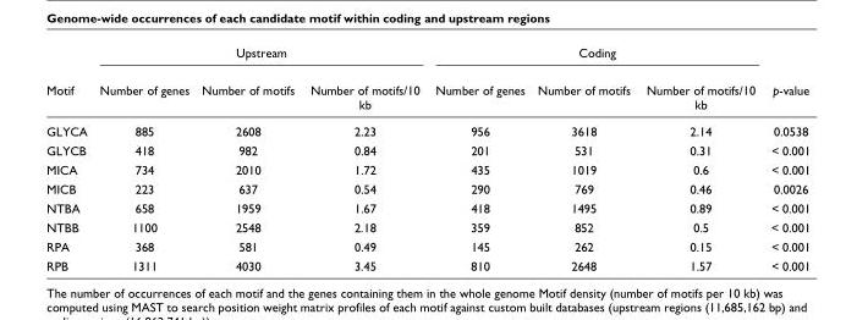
<table><thead><tr><td rowspan="2">Motif</td><td colspan="3">Upstream</td><td colspan="3">Coding</td><td rowspan="2">p-value</td></tr><tr><td>Number of genes</td><td>Number of motifs</td><td>Number of motifs/10 kb</td><td>Number of genes</td><td>Number of motifs</td><td>Number of motifs/10 kb</td></tr></thead><tbody><tr><td>GLYCA</td><td>885</td><td>2608</td><td>2.23</td><td>956</td><td>3618</td><td>2.14</td><td>0.0538</td></tr><tr><td>GLYCB</td><td>418</td><td>982</td><td>0.84</td><td>201</td><td>531</td><td>0.31</td><td>&lt; 0.001</td></tr><tr><td>MICA</td><td>734</td><td>2010</td><td>1.72</td><td>435</td><td>1019</td><td>0.6</td><td>&lt; 0.001</td></tr><tr><td>MICB</td><td>223</td><td>637</td><td>0.54</td><td>290</td><td>769</td><td>0.46</td><td>0.0026</td></tr><tr><td>NTBA</td><td>658</td><td>1959</td><td>1.67</td><td>418</td><td>1495</td><td>0.89</td><td>&lt; 0.001</td></tr><tr><td>NTBB</td><td>1100</td><td>2548</td><td>2.18</td><td>359</td><td>852</td><td>0.5</td><td>&lt; 0.001</td></tr><tr><td>RPA</td><td>368</td><td>581</td><td>0.49</td><td>145</td><td>262</td><td>0.15</td><td>&lt; 0.001</td></tr><tr><td>RPB</td><td>1311</td><td>4030</td><td>3.45</td><td>810</td><td>2648</td><td>1.57</td><td>&lt; 0.001</td></tr></tbody></table>